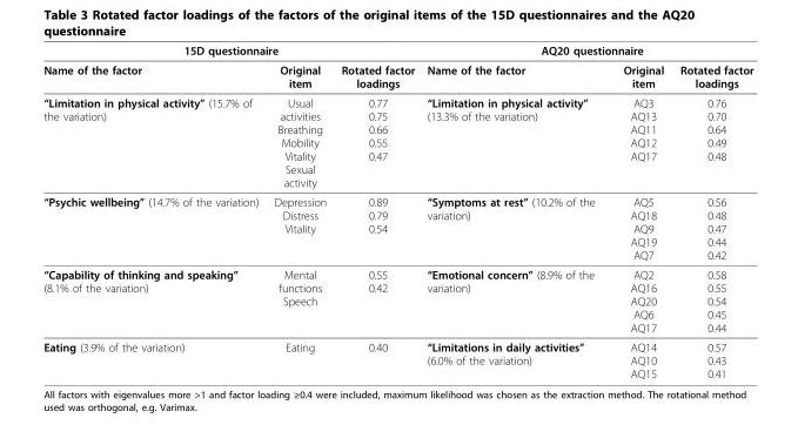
<table><thead><tr><td colspan="3">15D questionnaire</td><td colspan="3">AQ20 questionnaire</td></tr><tr><td>Name of the factor</td><td>Original item</td><td>Rotated factor loadings</td><td>Name of the factor</td><td>Original item</td><td>Rotated factor loadings</td></tr></thead><tbody><tr><td>“Limitation in physical activity” (15.7% of the variation)</td><td>Usual activities Breathing Mobility Vitality Sexual activity</td><td>0.77 0.75 0.66 0.55 0.47</td><td>“Limitation in physical activity” (13.3% of the variation)</td><td>AQ3 AQ13 AQ11 AQ12 AQ17</td><td>0.76 0.70 0.64 0.49 0.48</td></tr><tr><td>“Psychic wellbeing” (14.7% of the variation)</td><td>Depression Distress Vitality</td><td>0.89 0.79 0.54</td><td>“Symptoms at rest” (10.2% of the variation)</td><td>AQ5 AQ18 AQ9 AQ19 AQ7</td><td>0.56 0.48 0.47 0.44 0.42</td></tr><tr><td>“Capability of thinking and speaking” (8.1% of the variation)</td><td>Mental functions Speech</td><td>0.55 0.42</td><td>“Emotional concern” (8.9% of the variation)</td><td>AQ2 AQ16 AQ20 AQ6 AQ17</td><td>0.58 0.55 0.54 0.45 0.44</td></tr><tr><td>Eating (3.9% of the variation)</td><td>Eating</td><td>0.40</td><td>“Limitations in daily activities” (6.0% of the variation)</td><td>AQ14 AQ10 AQ15</td><td>0.57 0.43 0.41</td></tr></tbody></table>